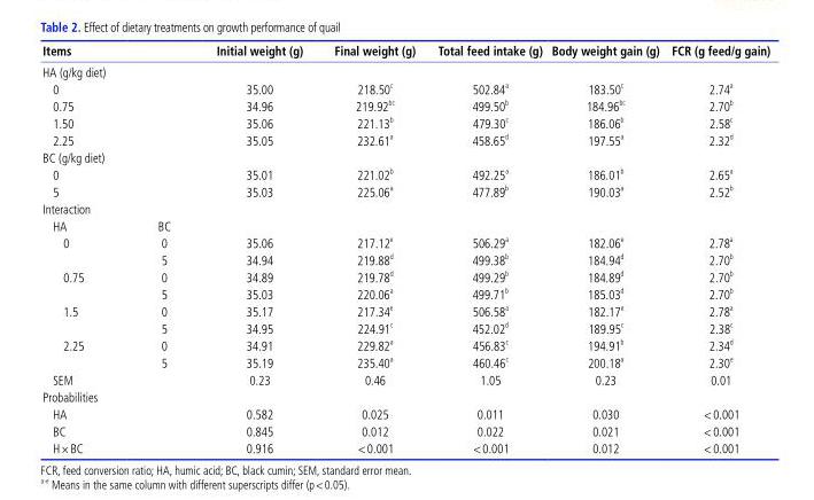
<table><thead><tr><td>Items</td><td></td><td>Initial weight (g)</td><td>Final weight (g)</td><td>Total feed intake (g)</td><td>Body weight gain (g)</td><td>FCR (g feed/g gain)</td></tr></thead><tbody><tr><td colspan="7">HA (g/kg diet)</td></tr><tr><td>0</td><td></td><td>35.00</td><td>218.50 <sup>c</sup></td><td>502.84 <sup>a</sup></td><td>183.50 <sup>c</sup></td><td>2.74 <sup>a</sup></td></tr><tr><td>0.75</td><td></td><td>34.96</td><td>219.92 <sup>bc</sup></td><td>499.50 <sup>b</sup></td><td>184.96 <sup>bc</sup></td><td>2.70 <sup>b</sup></td></tr><tr><td>1.50</td><td></td><td>35.06</td><td>221.13 <sup>b</sup></td><td>479.30 <sup>c</sup></td><td>186.06 <sup>b</sup></td><td>2.58 <sup>c</sup></td></tr><tr><td>2.25</td><td></td><td>35.05</td><td>232.61 <sup>a</sup></td><td>458.65 <sup>d</sup></td><td>197.55 <sup>a</sup></td><td>2.32 <sup>d</sup></td></tr><tr><td colspan="7">BC (g/kg diet)</td></tr><tr><td>0</td><td></td><td>35.01</td><td>221.02 <sup>b</sup></td><td>492.25 <sup>a</sup></td><td>186.01 <sup>b</sup></td><td>2.65 <sup>a</sup></td></tr><tr><td>5</td><td></td><td>35.03</td><td>225.06 <sup>a</sup></td><td>477.89 <sup>b</sup></td><td>190.03 <sup>a</sup></td><td>2.52 <sup>b</sup></td></tr><tr><td colspan="7">Interaction</td></tr><tr><td>HA</td><td>BC</td><td></td><td></td><td></td><td></td><td></td></tr><tr><td rowspan="2">0</td><td>0</td><td>35.06</td><td>217.12 <sup>e</sup></td><td>506.29 <sup>a</sup></td><td>182.06 <sup>e</sup></td><td>2.78 <sup>a</sup></td></tr><tr><td>5</td><td>34.94</td><td>219.88 <sup>d</sup></td><td>499.38 <sup>b</sup></td><td>184.94 <sup>d</sup></td><td>2.70 <sup>b</sup></td></tr><tr><td rowspan="2">0.75</td><td>0</td><td>34.89</td><td>219.78 <sup>d</sup></td><td>499.29 <sup>b</sup></td><td>184.89 <sup>d</sup></td><td>2.70 <sup>b</sup></td></tr><tr><td>5</td><td>35.03</td><td>220.06 <sup>a</sup></td><td>499.71 <sup>b</sup></td><td>185.03 <sup>d</sup></td><td>2.70 <sup>b</sup></td></tr><tr><td rowspan="2">1.5</td><td>0</td><td>35.17</td><td>217.34 <sup>e</sup></td><td>506.58 <sup>a</sup></td><td>182.17 <sup>e</sup></td><td>2.78 <sup>a</sup></td></tr><tr><td>5</td><td>34.95</td><td>224.91 <sup>c</sup></td><td>452.02 <sup>d</sup></td><td>189.95 <sup>c</sup></td><td>2.38 <sup>c</sup></td></tr><tr><td rowspan="2">2.25</td><td>0</td><td>34.91</td><td>229.82 <sup>a</sup></td><td>456.83 <sup>c</sup></td><td>194.91 <sup>b</sup></td><td>2.34 <sup>d</sup></td></tr><tr><td>5</td><td>35.19</td><td>235.40 <sup>a</sup></td><td>460.46 <sup>c</sup></td><td>200.18 <sup>a</sup></td><td>2.30 <sup>e</sup></td></tr><tr><td>SEM</td><td></td><td>0.23</td><td>0.46</td><td>1.05</td><td>0.23</td><td>0.01</td></tr><tr><td colspan="7">Probabilities</td></tr><tr><td>HA</td><td></td><td>0.582</td><td>0.025</td><td>0.011</td><td>0.030</td><td>&lt;0.001</td></tr><tr><td>BC</td><td></td><td>0.845</td><td>0.012</td><td>0.022</td><td>0.021</td><td>&lt;0.001</td></tr><tr><td>H×BC</td><td></td><td>0.916</td><td>&lt;0.001</td><td>&lt;0.001</td><td>0.012</td><td>&lt;0.001</td></tr></tbody></table>